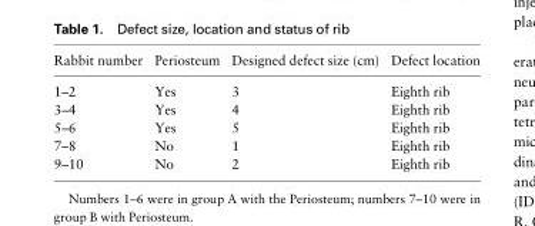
<table><thead><tr><td>Rabbit number</td><td>Periosteum</td><td>Designed defect size (cm)</td><td>Defect location</td></tr></thead><tbody><tr><td>1–2</td><td>Yes</td><td>3</td><td>Eighth rib</td></tr><tr><td>3–4</td><td>Yes</td><td>4</td><td>Eighth rib</td></tr><tr><td>5–6</td><td>Yes</td><td>5</td><td>Eighth rib</td></tr><tr><td>7–8</td><td>No</td><td>1</td><td>Eighth rib</td></tr><tr><td>9–10</td><td>No</td><td>2</td><td>Eighth rib</td></tr></tbody></table>